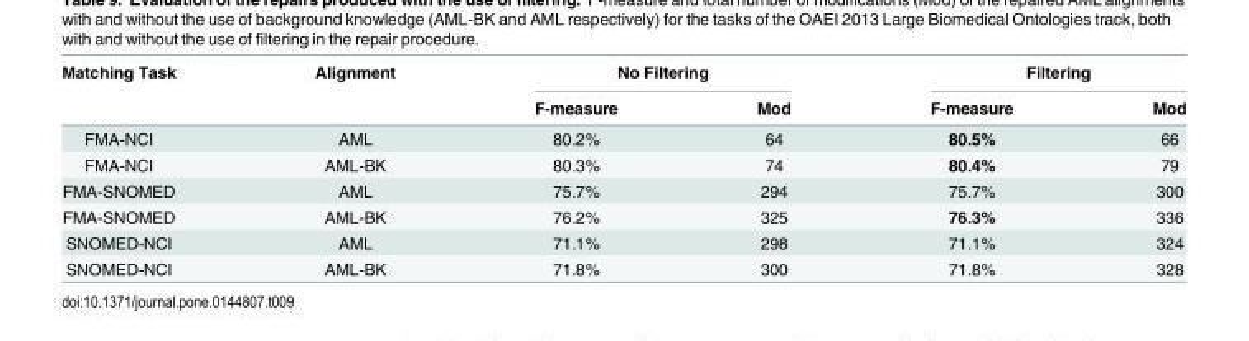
<table><thead><tr><td rowspan="2">Matching Task</td><td rowspan="2">Alignment</td><td colspan="2">No Filtering</td><td colspan="2">Filtering</td></tr><tr><td>F-measure</td><td>Mod</td><td>F-measure</td><td>Mod</td></tr></thead><tbody><tr><td>FMA-NCI</td><td>AML</td><td>80.2%</td><td>64</td><td>80.5%</td><td>66</td></tr><tr><td>FMA-NCI</td><td>AML-BK</td><td>80.3%</td><td>74</td><td>80.4%</td><td>79</td></tr><tr><td>FMA-SNOMED</td><td>AML</td><td>75.7%</td><td>294</td><td>75.7%</td><td>300</td></tr><tr><td>FMA-SNOMED</td><td>AML-BK</td><td>76.2%</td><td>325</td><td>76.3%</td><td>336</td></tr><tr><td>SNOMED-NCI</td><td>AML</td><td>71.1%</td><td>298</td><td>71.1%</td><td>324</td></tr><tr><td>SNOMED-NCI</td><td>AML-BK</td><td>71.8%</td><td>300</td><td>71.8%</td><td>328</td></tr></tbody></table>